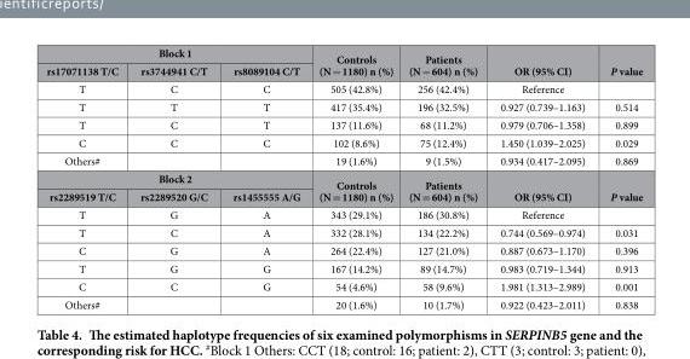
<table><thead><tr><td colspan="3">Block 1</td><td rowspan="2">Controls (N = 1180) n (%)</td><td rowspan="2">Patients (N = 604) n (%)</td><td rowspan="2">OR (95% CI)</td><td rowspan="2">P value</td></tr><tr><td>rs17071138 T/C</td><td>rs3744941 C/T</td><td>rs8089104 C/T</td></tr></thead><tbody><tr><td>T</td><td>C</td><td>C</td><td>505 (42.8%)</td><td>256 (42.4%)</td><td>Reference</td><td></td></tr><tr><td>T</td><td>T</td><td>T</td><td>417 (35.4%)</td><td>196 (32.5%)</td><td>0.927 (0.739–1.163)</td><td>0.514</td></tr><tr><td>T</td><td>C</td><td>T</td><td>137 (11.6%)</td><td>68 (11.2%)</td><td>0.979 (0.706–1.358)</td><td>0.899</td></tr><tr><td>C</td><td>C</td><td>C</td><td>102 (8.6%)</td><td>75 (12.4%)</td><td>1.450 (1.039–2.025)</td><td>0.029</td></tr><tr><td>Others#</td><td></td><td></td><td>19 (1.6%)</td><td>9 (1.5%)</td><td>0.934 (0.417–2.095)</td><td>0.869</td></tr><tr><td colspan="3">Block 2</td><td rowspan="2">Controls (N = 1180) n (%)</td><td rowspan="2">Patients (N = 604) n (%)</td><td rowspan="2">OR (95% CI)</td><td rowspan="2">P value</td></tr><tr><td>rs2289519 T/C</td><td>rs2289520 G/C</td><td>rs1455555 A/G</td></tr><tr><td>T</td><td>G</td><td>A</td><td>343 (29.1%)</td><td>186 (30.8%)</td><td>Reference</td><td></td></tr><tr><td>T</td><td>C</td><td>A</td><td>332 (28.1%)</td><td>134 (22.2%)</td><td>0.744 (0.569–0.974)</td><td>0.031</td></tr><tr><td>C</td><td>G</td><td>A</td><td>264 (22.4%)</td><td>127 (21.0%)</td><td>0.887 (0.673–1.170)</td><td>0.396</td></tr><tr><td>T</td><td>G</td><td>G</td><td>167 (14.2%)</td><td>89 (14.7%)</td><td>0.983 (0.719–1.344)</td><td>0.913</td></tr><tr><td>C</td><td>C</td><td>G</td><td>54 (4.6%)</td><td>58 (9.6%)</td><td>1.981 (1.313–2.989)</td><td>0.001</td></tr><tr><td>Others#</td><td></td><td></td><td>20 (1.6%)</td><td>10 (1.7%)</td><td>0.922 (0.423–2.011)</td><td>0.838</td></tr></tbody></table>